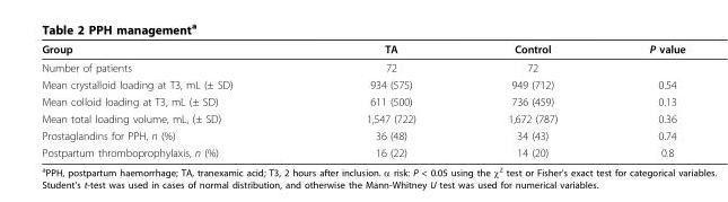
<table><thead><tr><td>Group</td><td>TA</td><td>Control</td><td>P value</td></tr></thead><tbody><tr><td>Number of patients</td><td>72</td><td>72</td><td></td></tr><tr><td>Mean crystalloid loading at T3, mL (± SD)</td><td>934 (575)</td><td>949 (712)</td><td>0.54</td></tr><tr><td>Mean colloid loading at T3, mL (± SD)</td><td>611 (500)</td><td>736 (459)</td><td>0.13</td></tr><tr><td>Mean total loading volume, mL, (± SD)</td><td>1,547 (722)</td><td>1,672 (787)</td><td>0.36</td></tr><tr><td>Prostaglandins for PPH, n (%)</td><td>36 (48)</td><td>34 (43)</td><td>0.74</td></tr><tr><td>Postpartum thromboprophylaxis, n (%)</td><td>16 (22)</td><td>14 (20)</td><td>0.8</td></tr></tbody></table>